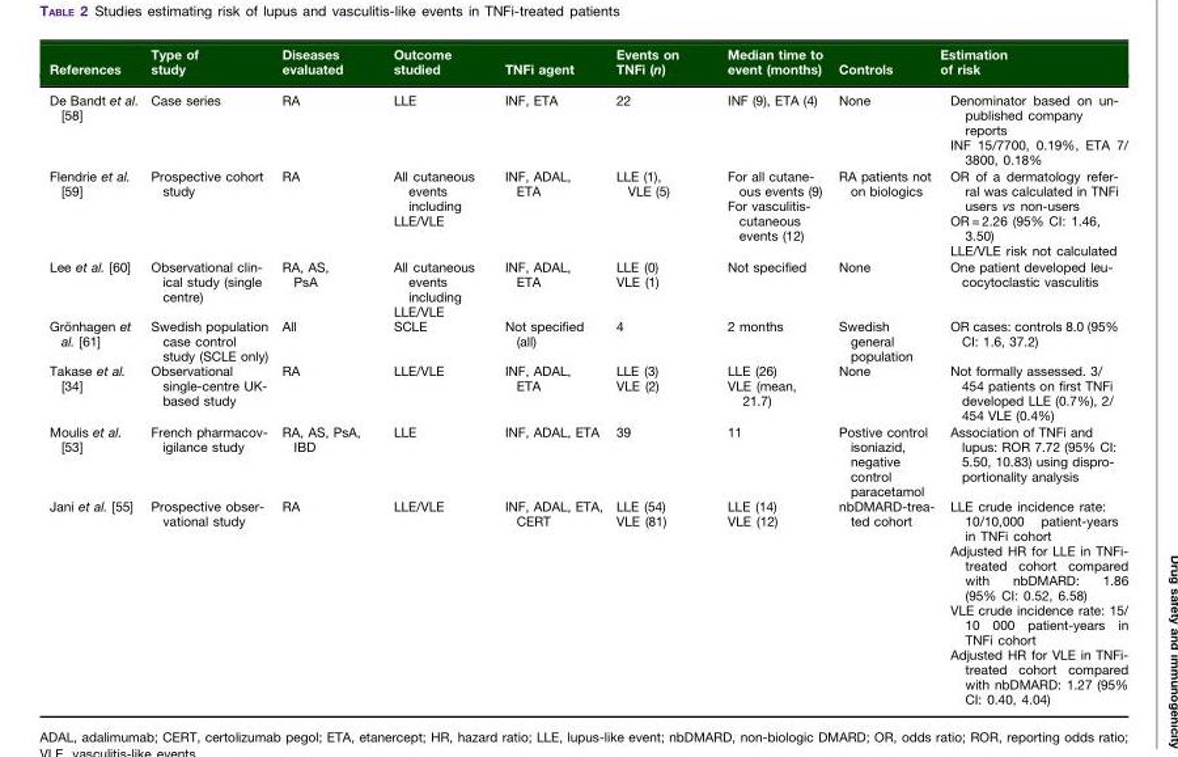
<table><thead><tr><td>References</td><td>Type of study</td><td>Diseases evaluated</td><td>Outcome studied</td><td>TNFi agent</td><td>Events on TNFi (n)</td><td>Median time to event (months)</td><td>Controls</td><td>Estimation of risk</td></tr></thead><tbody><tr><td>De Bandt et al. [58]</td><td>Case series</td><td>RA</td><td>LLE</td><td>INF, ETA</td><td>22</td><td>INF (9), ETA (4)</td><td>None</td><td>Denominator based on un- published company reports INF 15/7700, 0.19%, ETA 7/ 3800, 0.18%</td></tr><tr><td>Flendrie et al. [59]</td><td>Prospective cohort study</td><td>RA</td><td>All cutaneous events including LLE/VLE</td><td>INF, ADAL, ETA</td><td>LLE (1), VLE (5)</td><td>For all cutane- ous events (9) For vasculitis- cutaneous events (12)</td><td>RA patients not on biologics</td><td>OR of a dermatology refer- ral was calculated in TNFi users vs non-users OR = 2.26 (95% CI: 1.46, 3.50) LLE/VLE risk not calculated</td></tr><tr><td>Lee et al. [60]</td><td>Observational clin- ical study (single centre)</td><td>RA, AS, PsA</td><td>All cutaneous events including LLE/VLE</td><td>INF, ADAL, ETA</td><td>LLE (0) VLE (1)</td><td>Not specified</td><td>None</td><td>One patient developed leu- cocytoclastic vasculitis</td></tr><tr><td>Gro¨ nhagen et al. [61]</td><td>Swedish population case control study (SCLE only)</td><td>All</td><td>SCLE</td><td>Not specified (all)</td><td>4</td><td>2 months</td><td>Swedish general population</td><td>OR cases: controls 8.0 (95% CI: 1.6, 37.2)</td></tr><tr><td>Takase et al. [34]</td><td>Observational single-centre UK- based study</td><td>RA</td><td>LLE/VLE</td><td>INF, ADAL, ETA</td><td>LLE (3) VLE (2)</td><td>LLE (26) VLE (mean, 21.7)</td><td>None</td><td>Not formally assessed. 3/ 454 patients on first TNFi developed LLE (0.7%), 2/ 454 VLE (0.4%)</td></tr><tr><td>Moulis et al. [53]</td><td>French pharmacov- igilance study</td><td>RA, AS, PsA, IBD</td><td>LLE</td><td>INF, ADAL, ETA</td><td>39</td><td>11</td><td>Postive control isoniazid, negative control paracetamol</td><td>Association of TNFi and lupus: ROR 7.72 (95% CI: 5.50, 10.83) using dispro- portionality analysis</td></tr><tr><td>Jani et al. [55]</td><td>Prospective obser- vational study</td><td>RA</td><td>LLE/VLE</td><td>INF, ADAL, ETA, CERT</td><td>LLE (54) VLE (81)</td><td>LLE (14) VLE (12)</td><td>nbDMARD-trea- ted cohort</td><td>LLE crude incidence rate: 10/10,000 patient-years in TNFi cohort Adjusted HR for LLE in TNFi- treated cohort compared with nbDMARD: 1.86 (95% CI: 0.52, 6.58) VLE crude incidence rate: 15/ 10 000 patient-years in TNFi cohort Adjusted HR for VLE in TNFi- treated cohort compared with nbDMARD: 1.27 (95% CI: 0.40, 4.04)</td></tr></tbody></table>